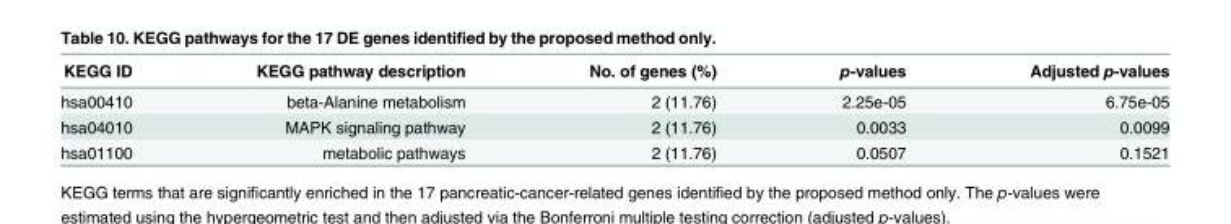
<table><thead><tr><td>KEGG ID</td><td>KEGG pathway description</td><td>No. of genes (%)</td><td>p-values</td><td>Adjusted p-values</td></tr></thead><tbody><tr><td>hsa00410</td><td>beta-Alanine metabolism</td><td>2 (11.76)</td><td>2.25e-05</td><td>6.75e-05</td></tr><tr><td>hsa04010</td><td>MAPK signaling pathway</td><td>2 (11.76)</td><td>0.0033</td><td>0.0099</td></tr><tr><td>hsa01100</td><td>metabolic pathways</td><td>2 (11.76)</td><td>0.0507</td><td>0.1521</td></tr></tbody></table>